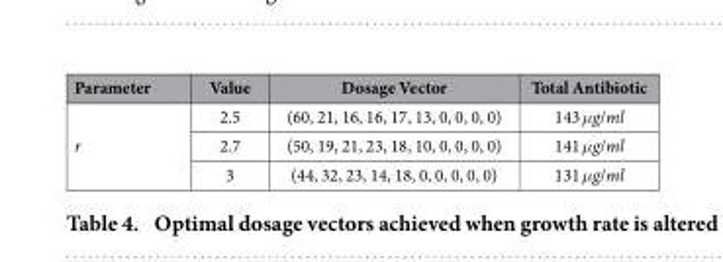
<table><thead><tr><td>Parameter</td><td>Value</td><td>Dosage Vector</td><td>Total Antibiotic</td></tr></thead><tbody><tr><td rowspan="3">r</td><td>2.5</td><td>(60, 21, 16, 16, 17, 13, 0, 0, 0, 0)</td><td>143 μg/ml</td></tr><tr><td>2.7</td><td>(50, 19, 21, 23, 18, 10, 0, 0, 0, 0)</td><td>141 μg/ml</td></tr><tr><td>3</td><td>(44, 32, 23, 14, 18, 0, 0, 0, 0, 0)</td><td>131 μg/ml</td></tr></tbody></table>